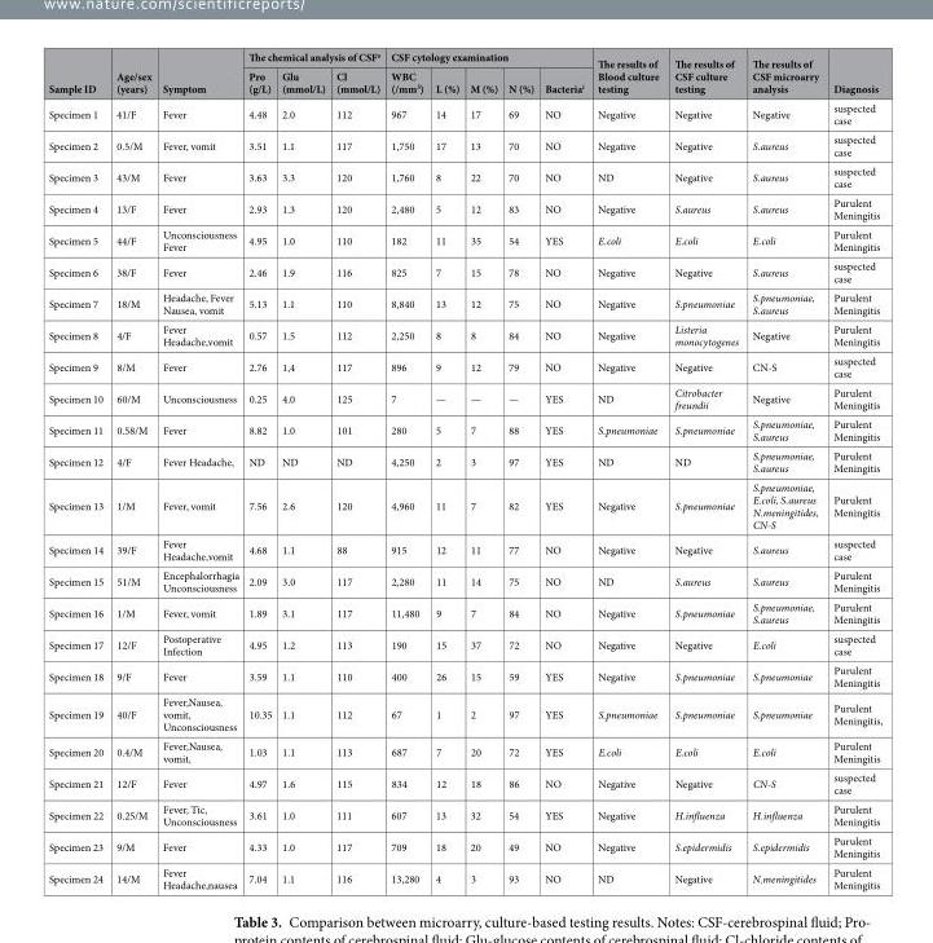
<table><thead><tr><td rowspan="2">Sample ID</td><td rowspan="2">Age/sex (years)</td><td rowspan="2">Symptom</td><td colspan="3">The chemical analysis of CSF<sup>a</sup></td><td colspan="5">CSF cytology examination</td><td rowspan="2">The results of Blood culture testing</td><td rowspan="2">The results of CSF culture testing</td><td rowspan="2">The results of CSF microarry analysis</td><td rowspan="2">Diagnosis</td></tr><tr><td>Pro (g/L)</td><td>Glu (mmol/L)</td><td>Cl (mmol/L)</td><td>WBC (/mm<sup>3</sup>)</td><td>L (%)</td><td>M (%)</td><td>N (%)</td><td>Bacteria<sup>i</sup></td></tr></thead><tbody><tr><td>Specimen 1</td><td>41/F</td><td>Fever</td><td>4.48</td><td>2.0</td><td>112</td><td>967</td><td>14</td><td>17</td><td>69</td><td>NO</td><td>Negative</td><td>Negative</td><td>Negative</td><td>suspected case</td></tr><tr><td>Specimen 2</td><td>0.5/M</td><td>Fever, vomit</td><td>3.51</td><td>1.1</td><td>117</td><td>1,750</td><td>17</td><td>13</td><td>70</td><td>NO</td><td>Negative</td><td>Negative</td><td>S.aureus</td><td>suspected case</td></tr><tr><td>Specimen 3</td><td>43/M</td><td>Fever</td><td>3.63</td><td>3.3</td><td>120</td><td>1,760</td><td>8</td><td>22</td><td>70</td><td>NO</td><td>ND</td><td>Negative</td><td>S.aureus</td><td>suspected case</td></tr><tr><td>Specimen 4</td><td>13/F</td><td>Fever</td><td>2.93</td><td>1.3</td><td>120</td><td>2,480</td><td>5</td><td>12</td><td>83</td><td>NO</td><td>Negative</td><td>S.aureus</td><td>S.aureus</td><td>Purulent Meningitis</td></tr><tr><td>Specimen 5</td><td>44/F</td><td>Unconsciousness Fever</td><td>4.95</td><td>1.0</td><td>110</td><td>182</td><td>11</td><td>35</td><td>54</td><td>YES</td><td>E.coli</td><td>E.coli</td><td>E.coli</td><td>Purulent Meningitis</td></tr><tr><td>Specimen 6</td><td>38/F</td><td>Fever</td><td>2.46</td><td>1.9</td><td>116</td><td>825</td><td>7</td><td>15</td><td>78</td><td>NO</td><td>Negative</td><td>Negative</td><td>S.aureus</td><td>suspected case</td></tr><tr><td>Specimen 7</td><td>18/M</td><td>Headache, Fever Nausea, vomit</td><td>5.13</td><td>1.1</td><td>110</td><td>8,840</td><td>13</td><td>12</td><td>75</td><td>NO</td><td>Negative</td><td>S.pneumoniae</td><td>S.pneumoniae, S.aureus</td><td>Purulent Meningitis</td></tr><tr><td>Specimen 8</td><td>4/F</td><td>Fever Headache,vomit</td><td>0.57</td><td>1.5</td><td>112</td><td>2,250</td><td>8</td><td>8</td><td>84</td><td>NO</td><td>Negative</td><td>Listeria monocytogenes</td><td>Negative</td><td>Purulent Meningitis</td></tr><tr><td>Specimen 9</td><td>8/M</td><td>Fever</td><td>2.76</td><td>1,4</td><td>117</td><td>896</td><td>9</td><td>12</td><td>79</td><td>NO</td><td>Negative</td><td>Negative</td><td>CN-S</td><td>suspected case</td></tr><tr><td>Specimen 10</td><td>60/M</td><td>Unconsciousness</td><td>0.25</td><td>4.0</td><td>125</td><td>7</td><td>—</td><td>—</td><td>—</td><td>YES</td><td>ND</td><td>Citrobacter freundii</td><td>Negative</td><td>Purulent Meningitis</td></tr><tr><td>Specimen 11</td><td>0.58/M</td><td>Fever</td><td>8.82</td><td>1.0</td><td>101</td><td>280</td><td>5</td><td>7</td><td>88</td><td>YES</td><td>S.pneumoniae</td><td>S.pneumoniae</td><td>S.pneumoniae, S.aureus</td><td>Purulent Meningitis</td></tr><tr><td>Specimen 12</td><td>4/F</td><td>Fever Headache,</td><td>ND</td><td>ND</td><td>ND</td><td>4,250</td><td>2</td><td>3</td><td>97</td><td>YES</td><td>ND</td><td>ND</td><td>S.pneumoniae, S.aureus</td><td>Purulent Meningitis</td></tr><tr><td>Specimen 13</td><td>1/M</td><td>Fever, vomit</td><td>7.56</td><td>2.6</td><td>120</td><td>4,960</td><td>11</td><td>7</td><td>82</td><td>YES</td><td>Negative</td><td>S.pneumoniae</td><td>S.pneumoniae, E.coli, S.aureus N.meningitides, CN-S</td><td>Purulent Meningitis</td></tr><tr><td>Specimen 14</td><td>39/F</td><td>Fever Headache,vomit</td><td>4.68</td><td>1.1</td><td>88</td><td>915</td><td>12</td><td>11</td><td>77</td><td>NO</td><td>Negative</td><td>Negative</td><td>S.aureus</td><td>suspected case</td></tr><tr><td>Specimen 15</td><td>51/M</td><td>Encephalorrhagia Unconsciousness</td><td>2.09</td><td>3.0</td><td>117</td><td>2,280</td><td>11</td><td>14</td><td>75</td><td>NO</td><td>ND</td><td>S.aureus</td><td>S.aureus</td><td>Purulent Meningitis</td></tr><tr><td>Specimen 16</td><td>1/M</td><td>Fever, vomit</td><td>1.89</td><td>3.1</td><td>117</td><td>11,480</td><td>9</td><td>7</td><td>84</td><td>NO</td><td>Negative</td><td>S.pneumoniae</td><td>S.pneumoniae, S.aureus</td><td>Purulent Meningitis</td></tr><tr><td>Specimen 17</td><td>12/F</td><td>Postoperative Infection</td><td>4.95</td><td>1.2</td><td>113</td><td>190</td><td>15</td><td>37</td><td>72</td><td>NO</td><td>Negative</td><td>Negative</td><td>E.coli</td><td>suspected case</td></tr><tr><td>Specimen 18</td><td>9/F</td><td>Fever</td><td>3.59</td><td>1.1</td><td>110</td><td>400</td><td>26</td><td>15</td><td>59</td><td>YES</td><td>Negative</td><td>S.pneumoniae</td><td>S.pneumoniae</td><td>Purulent Meningitis</td></tr><tr><td>Specimen 19</td><td>40/F</td><td>Fever,Nausea, vomit, Unconsciousness</td><td>10.35</td><td>1.1</td><td>112</td><td>67</td><td>1</td><td>2</td><td>97</td><td>YES</td><td>S.pneumoniae</td><td>S.pneumoniae</td><td>S.pneumoniae</td><td>Purulent Meningitis,</td></tr><tr><td>Specimen 20</td><td>0.4/M</td><td>Fever,Nausea, vomit,</td><td>1.03</td><td>1.1</td><td>113</td><td>687</td><td>7</td><td>20</td><td>72</td><td>YES</td><td>E.coli</td><td>E.coli</td><td>E.coli</td><td>Purulent Meningitis</td></tr><tr><td>Specimen 21</td><td>12/F</td><td>Fever</td><td>4.97</td><td>1.6</td><td>115</td><td>834</td><td>12</td><td>18</td><td>86</td><td>NO</td><td>Negative</td><td>Negative</td><td>CN-S</td><td>suspected case</td></tr><tr><td>Specimen 22</td><td>0.25/M</td><td>Fever, Tic, Unconsciousness</td><td>3.61</td><td>1.0</td><td>111</td><td>607</td><td>13</td><td>32</td><td>54</td><td>YES</td><td>Negative</td><td>H.influenza</td><td>H.influenza</td><td>Purulent Meningitis</td></tr><tr><td>Specimen 23</td><td>9/M</td><td>Fever</td><td>4.33</td><td>1.0</td><td>117</td><td>709</td><td>18</td><td>20</td><td>49</td><td>NO</td><td>Negative</td><td>S.epidermidis</td><td>S.epidermidis</td><td>Purulent Meningitis</td></tr><tr><td>Specimen 24</td><td>14/M</td><td>Fever Headache,nausea</td><td>7.04</td><td>1.1</td><td>116</td><td>13,280</td><td>4</td><td>3</td><td>93</td><td>NO</td><td>ND</td><td>Negative</td><td>N.meningitides</td><td>Purulent Meningitis</td></tr></tbody></table>